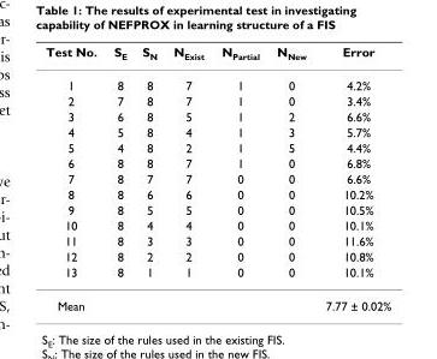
<table><thead><tr><td>Test No.</td><td>S<sub>E</sub></td><td>S<sub>N</sub></td><td>N<sub>Exist</sub></td><td>N<sub>Partial</sub></td><td>N<sub>New</sub></td><td>Error</td></tr></thead><tbody><tr><td>1</td><td>8</td><td>8</td><td>7</td><td>1</td><td>0</td><td>4.2%</td></tr><tr><td>2</td><td>7</td><td>8</td><td>7</td><td>1</td><td>0</td><td>3.4%</td></tr><tr><td>3</td><td>6</td><td>8</td><td>5</td><td>1</td><td>2</td><td>6.6%</td></tr><tr><td>4</td><td>5</td><td>8</td><td>4</td><td>1</td><td>3</td><td>5.7%</td></tr><tr><td>5</td><td>4</td><td>8</td><td>2</td><td>1</td><td>5</td><td>4.4%</td></tr><tr><td>6</td><td>8</td><td>8</td><td>7</td><td>1</td><td>0</td><td>6.8%</td></tr><tr><td>7</td><td>8</td><td>7</td><td>7</td><td>0</td><td>0</td><td>6.6%</td></tr><tr><td>8</td><td>8</td><td>6</td><td>6</td><td>0</td><td>0</td><td>10.2%</td></tr><tr><td>9</td><td>8</td><td>5</td><td>5</td><td>0</td><td>0</td><td>10.5%</td></tr><tr><td>10</td><td>8</td><td>4</td><td>4</td><td>0</td><td>0</td><td>10.1%</td></tr><tr><td>11</td><td>8</td><td>3</td><td>3</td><td>0</td><td>0</td><td>11.6%</td></tr><tr><td>12</td><td>8</td><td>2</td><td>2</td><td>0</td><td>0</td><td>10.8%</td></tr><tr><td>13</td><td>8</td><td>1</td><td>1</td><td>0</td><td>0</td><td>10.1%</td></tr><tr><td>Mean</td><td></td><td></td><td></td><td></td><td></td><td>7.77 ± 0.02%</td></tr></tbody></table>